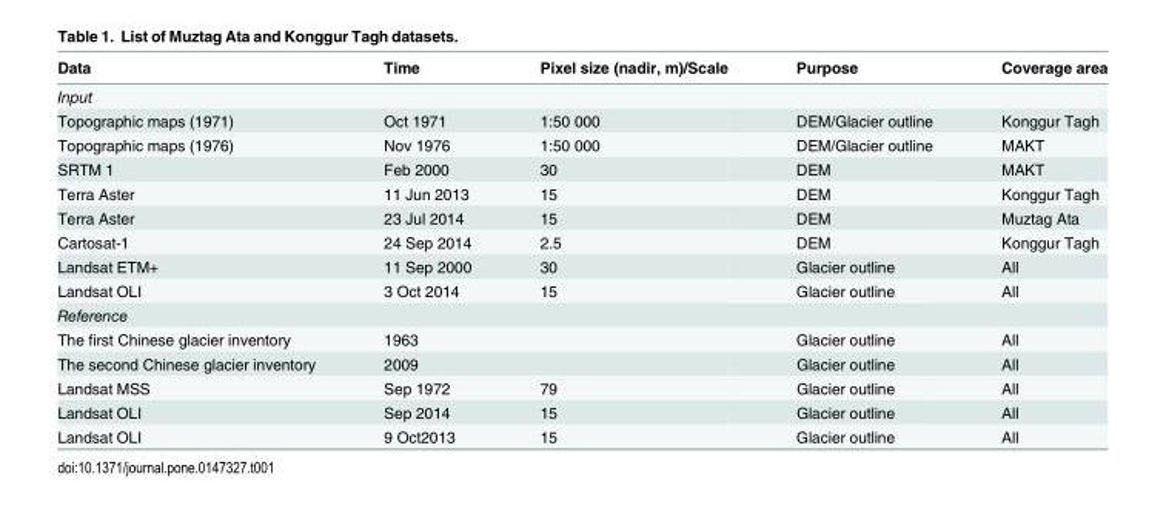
<table><thead><tr><td>Data</td><td>Time</td><td>Pixel size (nadir, m)/Scale</td><td>Purpose</td><td>Coverage area</td></tr></thead><tbody><tr><td colspan="5">Input</td></tr><tr><td>Topographic maps (1971)</td><td>Oct 1971</td><td>1:50 000</td><td>DEM/Glacier outline</td><td>Konggur Tagh</td></tr><tr><td>Topographic maps (1976)</td><td>Nov 1976</td><td>1:50 000</td><td>DEM/Glacier outline</td><td>MAKT</td></tr><tr><td>SRTM 1</td><td>Feb 2000</td><td>30</td><td>DEM</td><td>MAKT</td></tr><tr><td>Terra Aster</td><td>11 Jun 2013</td><td>15</td><td>DEM</td><td>Konggur Tagh</td></tr><tr><td>Terra Aster</td><td>23 Jul 2014</td><td>15</td><td>DEM</td><td>Muztag Ata</td></tr><tr><td>Cartosat-1</td><td>24 Sep 2014</td><td>2.5</td><td>DEM</td><td>Konggur Tagh</td></tr><tr><td>Landsat ETM+</td><td>11 Sep 2000</td><td>30</td><td>Glacier outline</td><td>All</td></tr><tr><td>Landsat OLI</td><td>3 Oct 2014</td><td>15</td><td>Glacier outline</td><td>All</td></tr><tr><td colspan="5">Reference</td></tr><tr><td>The first Chinese glacier inventory</td><td>1963</td><td></td><td>Glacier outline</td><td>All</td></tr><tr><td>The second Chinese glacier inventory</td><td>2009</td><td></td><td>Glacier outline</td><td>All</td></tr><tr><td>Landsat MSS</td><td>Sep 1972</td><td>79</td><td>Glacier outline</td><td>All</td></tr><tr><td>Landsat OLI</td><td>Sep 2014</td><td>15</td><td>Glacier outline</td><td>All</td></tr><tr><td>Landsat OLI</td><td>9 Oct2013</td><td>15</td><td>Glacier outline</td><td>All</td></tr></tbody></table>